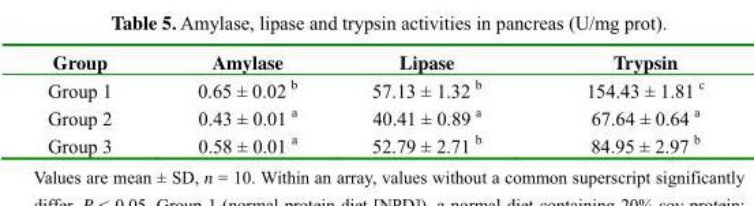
<table><thead><tr><td>Group</td><td>Amylase</td><td>Lipase</td><td>Trypsin</td></tr></thead><tbody><tr><td>Group 1</td><td>0.65 ± 0.02 <sup>b</sup></td><td>57.13 ± 1.32 <sup>b</sup></td><td>154.43 ± 1.81 <sup>c</sup></td></tr><tr><td>Group 2</td><td>0.43 ± 0.01 <sup>a</sup></td><td>40.41 ± 0.89 <sup>a</sup></td><td>67.64 ± 0.64 <sup>a</sup></td></tr><tr><td>Group 3</td><td>0.58 ± 0.01 <sup>a</sup></td><td>52.79 ± 2.71 <sup>b</sup></td><td>84.95 ± 2.97 <sup>b</sup></td></tr></tbody></table>